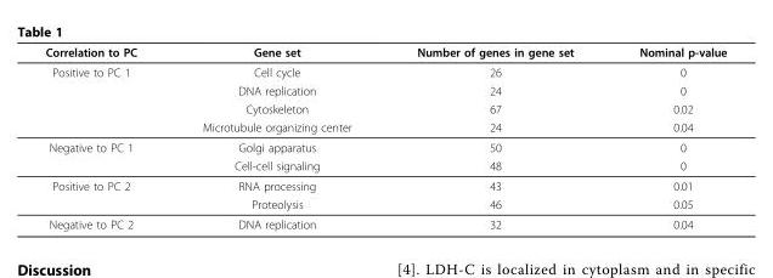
<table><thead><tr><td>Correlation to PC</td><td>Gene set</td><td>Number of genes in gene set</td><td>Nominal p-value</td></tr></thead><tbody><tr><td rowspan="4">Positive to PC 1</td><td>Cell cycle</td><td>26</td><td>0</td></tr><tr><td>DNA replication</td><td>24</td><td>0</td></tr><tr><td>Cytoskeleton</td><td>67</td><td>0.02</td></tr><tr><td>Microtubule organizing center</td><td>24</td><td>0.04</td></tr><tr><td rowspan="2">Negative to PC 1</td><td>Golgi apparatus</td><td>50</td><td>0</td></tr><tr><td>Cell-cell signaling</td><td>48</td><td>0</td></tr><tr><td rowspan="2">Positive to PC 2</td><td>RNA processing</td><td>43</td><td>0.01</td></tr><tr><td>Proteolysis</td><td>46</td><td>0.05</td></tr><tr><td>Negative to PC 2</td><td>DNA replication</td><td>32</td><td>0.04</td></tr></tbody></table>